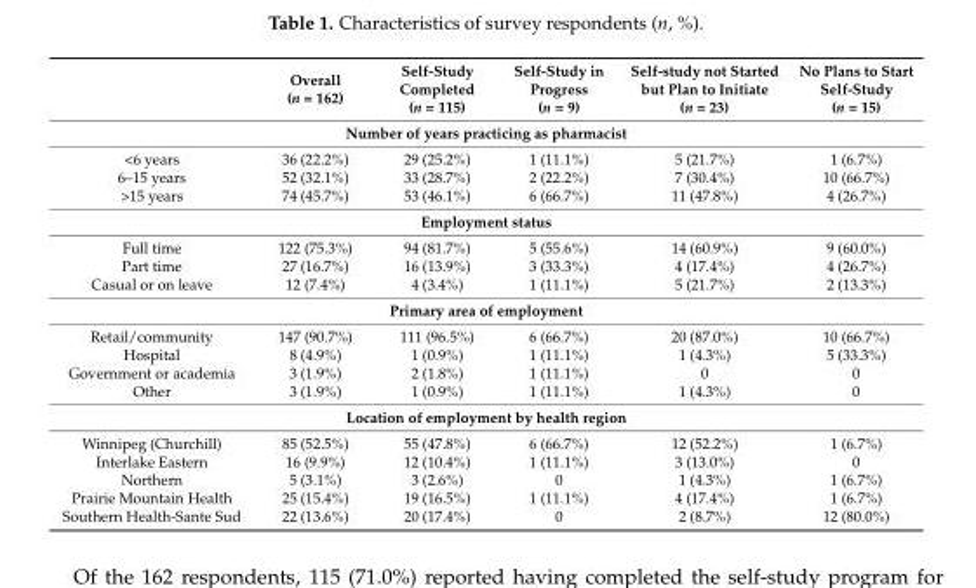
<table><thead><tr><td></td><td>Overall (n = 162)</td><td>Self-Study Completed (n = 115)</td><td>Self-Study in Progress (n = 9)</td><td>Self-study not Started but Plan to Initiate (n = 23)</td><td>No Plans to Start Self-Study (n = 15)</td></tr></thead><tbody><tr><td colspan="6">Number of years practicing as pharmacist</td></tr><tr><td>&lt;6 years</td><td>36 (22.2%)</td><td>29 (25.2%)</td><td>1 (11.1%)</td><td>5 (21.7%)</td><td>1 (6.7%)</td></tr><tr><td>6–15 years</td><td>52 (32.1%)</td><td>33 (28.7%)</td><td>2 (22.2%)</td><td>7 (30.4%)</td><td>10 (66.7%)</td></tr><tr><td>&gt;15 years</td><td>74 (45.7%)</td><td>53 (46.1%)</td><td>6 (66.7%)</td><td>11 (47.8%)</td><td>4 (26.7%)</td></tr><tr><td colspan="6">Employment status</td></tr><tr><td>Full time</td><td>122 (75.3%)</td><td>94 (81.7%)</td><td>5 (55.6%)</td><td>14 (60.9%)</td><td>9 (60.0%)</td></tr><tr><td>Part time</td><td>27 (16.7%)</td><td>16 (13.9%)</td><td>3 (33.3%)</td><td>4 (17.4%)</td><td>4 (26.7%)</td></tr><tr><td>Casual or on leave</td><td>12 (7.4%)</td><td>4 (3.4%)</td><td>1 (11.1%)</td><td>5 (21.7%)</td><td>2 (13.3%)</td></tr><tr><td colspan="6">Primary area of employment</td></tr><tr><td>Retail/community</td><td>147 (90.7%)</td><td>111 (96.5%)</td><td>6 (66.7%)</td><td>20 (87.0%)</td><td>10 (66.7%)</td></tr><tr><td>Hospital</td><td>8 (4.9%)</td><td>1 (0.9%)</td><td>1 (11.1%)</td><td>1 (4.3%)</td><td>5 (33.3%)</td></tr><tr><td>Government or academia</td><td>3 (1.9%)</td><td>2 (1.8%)</td><td>1 (11.1%)</td><td>0</td><td>0</td></tr><tr><td>Other</td><td>3 (1.9%)</td><td>1 (0.9%)</td><td>1 (11.1%)</td><td>1 (4.3%)</td><td>0</td></tr><tr><td colspan="6">Location of employment by health region</td></tr><tr><td>Winnipeg (Churchill)</td><td>85 (52.5%)</td><td>55 (47.8%)</td><td>6 (66.7%)</td><td>12 (52.2%)</td><td>1 (6.7%)</td></tr><tr><td>Interlake Eastern</td><td>16 (9.9%)</td><td>12 (10.4%)</td><td>1 (11.1%)</td><td>3 (13.0%)</td><td>0</td></tr><tr><td>Northern</td><td>5 (3.1%)</td><td>3 (2.6%)</td><td>0</td><td>1 (4.3%)</td><td>1 (6.7%)</td></tr><tr><td>Prairie Mountain Health</td><td>25 (15.4%)</td><td>19 (16.5%)</td><td>1 (11.1%)</td><td>4 (17.4%)</td><td>1 (6.7%)</td></tr><tr><td>Southern Health-Sante Sud</td><td>22 (13.6%)</td><td>20 (17.4%)</td><td>0</td><td>2 (8.7%)</td><td>12 (80.0%)</td></tr></tbody></table>